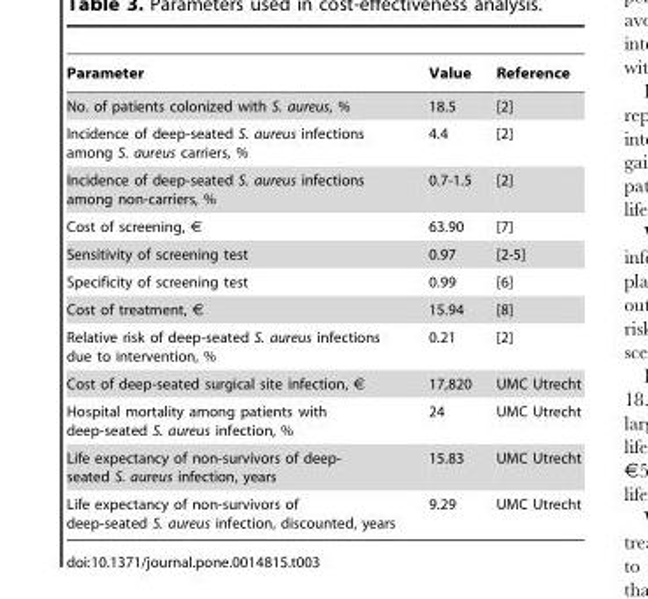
<table><thead><tr><td>Parameter</td><td>Value</td><td>Reference</td></tr></thead><tbody><tr><td>No. of patients colonized with S. aureus, %</td><td>18.5</td><td>[2]</td></tr><tr><td>Incidence of deep-seated S. aureus infections among S. aureus carriers, %</td><td>4.4</td><td>[2]</td></tr><tr><td>Incidence of deep-seated S. aureus infections among non-carriers, %</td><td>0.7-1.5</td><td>[2]</td></tr><tr><td>Cost of screening, €</td><td>63.90</td><td>[7]</td></tr><tr><td>Sensitivity of screening test</td><td>0.97</td><td>[2-5]</td></tr><tr><td>Specificity of screening test</td><td>0.99</td><td>[6]</td></tr><tr><td>Cost of treatment, €</td><td>15.94</td><td>[8]</td></tr><tr><td>Relative risk of deep-seated S. aureus infections due to intervention, %</td><td>0.21</td><td>[2]</td></tr><tr><td>Cost of deep-seated surgical site infection, €</td><td>17,820</td><td>UMC Utrecht</td></tr><tr><td>Hospital mortality among patients with deep-seated S. aureus infection, %</td><td>24</td><td>UMC Utrecht</td></tr><tr><td>Life expectancy of non-survivors of deep- seated S. aureus infection, years</td><td>15.83</td><td>UMC Utrecht</td></tr><tr><td>Life expectancy of non-survivors of deep-seated S. aureus infection, discounted, years</td><td>9.29</td><td>UMC Utrecht</td></tr></tbody></table>